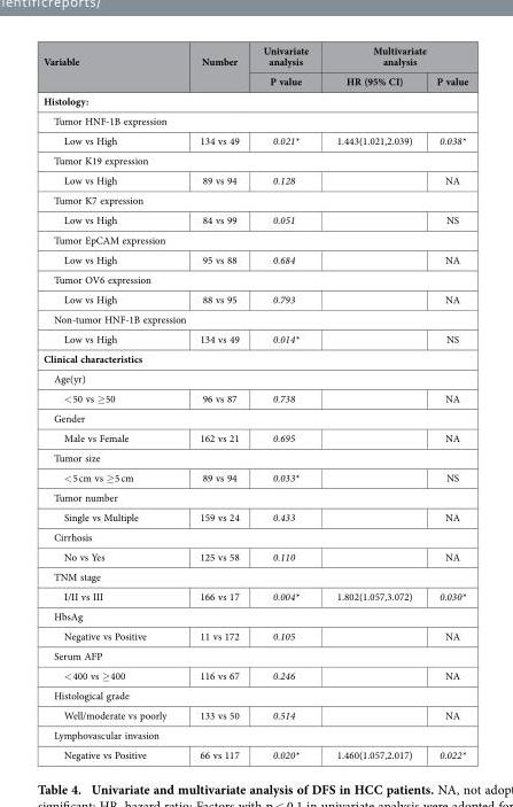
<table><thead><tr><td rowspan="2">Variable</td><td rowspan="2">Number</td><td rowspan="2">Univariate analysis P value</td><td colspan="2">Multivariate analysis</td></tr><tr><td>HR (95% CI)</td><td>P value</td></tr></thead><tbody><tr><td colspan="5">Histology:</td></tr><tr><td colspan="5">Tumor HNF-1B expression</td></tr><tr><td>Low vs High</td><td>134 vs 49</td><td>0.021*</td><td>1.443(1.021,2.039)</td><td>0.038*</td></tr><tr><td colspan="5">Tumor K19 expression</td></tr><tr><td>Low vs High</td><td>89 vs 94</td><td>0.128</td><td></td><td>NA</td></tr><tr><td colspan="5">Tumor K7 expression</td></tr><tr><td>Low vs High</td><td>84 vs 99</td><td>0.051</td><td></td><td>NS</td></tr><tr><td colspan="5">Tumor EpCAM expression</td></tr><tr><td>Low vs High</td><td>95 vs 88</td><td>0.684</td><td></td><td>NA</td></tr><tr><td colspan="5">Tumor OV6 expression</td></tr><tr><td>Low vs High</td><td>88 vs 95</td><td>0.793</td><td></td><td>NA</td></tr><tr><td colspan="5">Non-tumor HNF-1B expression</td></tr><tr><td>Low vs High</td><td>134 vs 49</td><td>0.014*</td><td></td><td>NS</td></tr><tr><td colspan="5">Clinical characteristics</td></tr><tr><td colspan="5">Age(yr)</td></tr><tr><td>&lt; 50 vs ≥ 50</td><td>96 vs 87</td><td>0.738</td><td></td><td>NA</td></tr><tr><td colspan="5">Gender</td></tr><tr><td>Male vs Female</td><td>162 vs 21</td><td>0.695</td><td></td><td>NA</td></tr><tr><td colspan="5">Tumor size</td></tr><tr><td>&lt; 5 cm vs ≥ 5 cm</td><td>89 vs 94</td><td>0.033*</td><td></td><td>NS</td></tr><tr><td colspan="5">Tumor number</td></tr><tr><td>Single vs Multiple</td><td>159 vs 24</td><td>0.433</td><td></td><td>NA</td></tr><tr><td colspan="5">Cirrhosis</td></tr><tr><td>No vs Yes</td><td>125 vs 58</td><td>0.110</td><td></td><td>NA</td></tr><tr><td colspan="5">TNM stage</td></tr><tr><td>I/II vs III</td><td>166 vs 17</td><td>0.004*</td><td>1.802(1.057,3.072)</td><td>0.030*</td></tr><tr><td colspan="5">HbsAg</td></tr><tr><td>Negative vs Positive</td><td>11 vs 172</td><td>0.105</td><td></td><td>NA</td></tr><tr><td colspan="5">Serum AFP</td></tr><tr><td>&lt; 400 vs ≥ 400</td><td>116 vs 67</td><td>0.246</td><td></td><td>NA</td></tr><tr><td colspan="5">Histological grade</td></tr><tr><td>Well/moderate vs poorly</td><td>133 vs 50</td><td>0.514</td><td></td><td>NA</td></tr><tr><td colspan="5">Lymphovascular invasion</td></tr><tr><td>Negative vs Positive</td><td>66 vs 117</td><td>0.020*</td><td>1.460(1.057,2.017)</td><td>0.022*</td></tr></tbody></table>